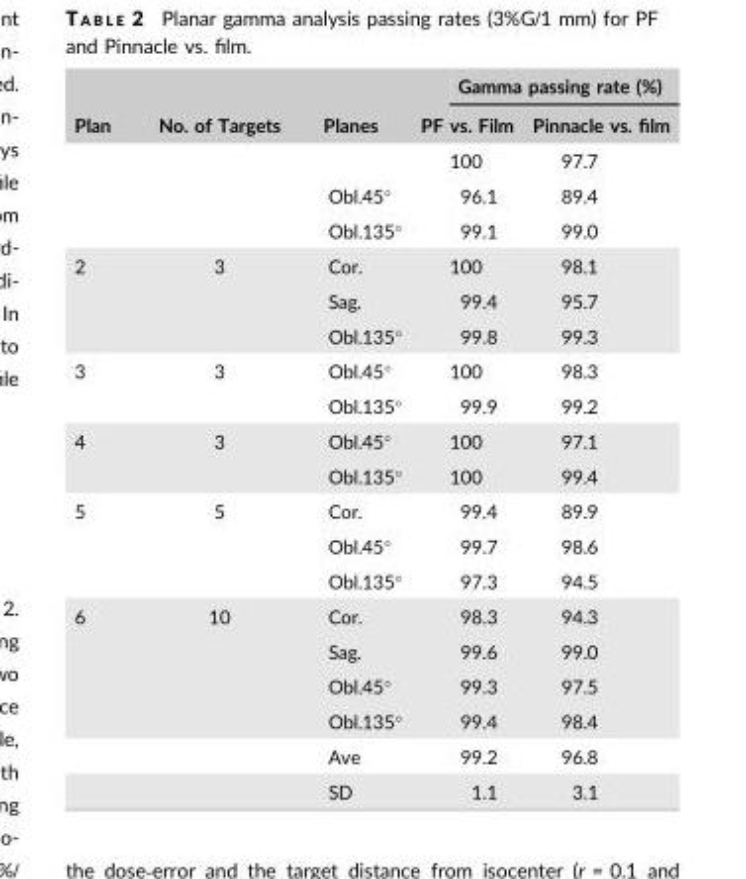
<table><thead><tr><td rowspan="2">Plan</td><td rowspan="2">No. of Targets</td><td rowspan="2">Planes</td><td colspan="2">Gamma passing rate (%)</td></tr><tr><td>PF vs. Film</td><td>Pinnacle vs. film</td></tr></thead><tbody><tr><td rowspan="3"></td><td rowspan="3"></td><td></td><td>100</td><td>97.7</td></tr><tr><td>Obl.45°</td><td>96.1</td><td>89.4</td></tr><tr><td>Obl.135°</td><td>99.1</td><td>99.0</td></tr><tr><td rowspan="3">2</td><td rowspan="3">3</td><td>Cor.</td><td>100</td><td>98.1</td></tr><tr><td>Sag.</td><td>99.4</td><td>95.7</td></tr><tr><td>Obl.135°</td><td>99.8</td><td>99.3</td></tr><tr><td rowspan="2">3</td><td rowspan="2">3</td><td>Obl.45°</td><td>100</td><td>98.3</td></tr><tr><td>Obl.135°</td><td>99.9</td><td>99.2</td></tr><tr><td rowspan="2">4</td><td rowspan="2">3</td><td>Obl.45°</td><td>100</td><td>97.1</td></tr><tr><td>Obl.135°</td><td>100</td><td>99.4</td></tr><tr><td rowspan="3">5</td><td rowspan="3">5</td><td>Cor.</td><td>99.4</td><td>89.9</td></tr><tr><td>Obl.45°</td><td>99.7</td><td>98.6</td></tr><tr><td>Obl.135°</td><td>97.3</td><td>94.5</td></tr><tr><td rowspan="6">6</td><td rowspan="4">10</td><td>Cor.</td><td>98.3</td><td>94.3</td></tr><tr><td>Sag.</td><td>99.6</td><td>99.0</td></tr><tr><td>Obl.45°</td><td>99.3</td><td>97.5</td></tr><tr><td>Obl.135°</td><td>99.4</td><td>98.4</td></tr><tr><td></td><td>Ave</td><td>99.2</td><td>96.8</td></tr><tr><td></td><td>SD</td><td>1.1</td><td>3.1</td></tr></tbody></table>